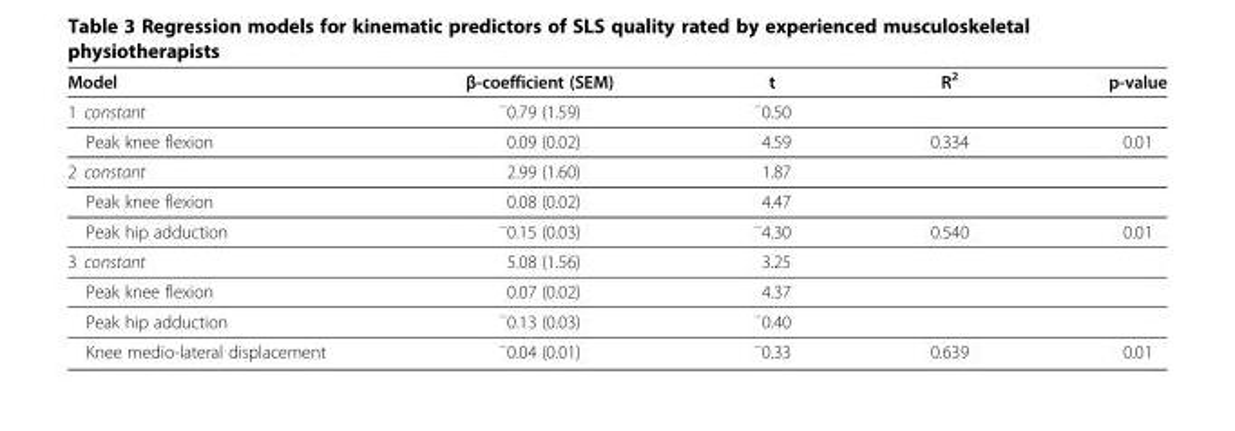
<table><thead><tr><td>Model</td><td>β-coefficient (SEM)</td><td>t</td><td>R<sup>2</sup></td><td>p-value</td></tr></thead><tbody><tr><td>1 constant</td><td><sup>−</sup>0.79 (1.59)</td><td><sup>−</sup>0.50</td><td></td><td></td></tr><tr><td>Peak knee flexion</td><td>0.09 (0.02)</td><td>4.59</td><td>0.334</td><td>0.01</td></tr><tr><td>2 constant</td><td>2.99 (1.60)</td><td>1.87</td><td></td><td></td></tr><tr><td>Peak knee flexion</td><td>0.08 (0.02)</td><td>4.47</td><td></td><td></td></tr><tr><td>Peak hip adduction</td><td><sup>−</sup>0.15 (0.03)</td><td><sup>−</sup>4.30</td><td>0.540</td><td>0.01</td></tr><tr><td>3 constant</td><td>5.08 (1.56)</td><td>3.25</td><td></td><td></td></tr><tr><td>Peak knee flexion</td><td>0.07 (0.02)</td><td>4.37</td><td></td><td></td></tr><tr><td>Peak hip adduction</td><td><sup>−</sup>0.13 (0.03)</td><td><sup>−</sup>0.40</td><td></td><td></td></tr><tr><td>Knee medio-lateral displacement</td><td><sup>−</sup>0.04 (0.01)</td><td><sup>−</sup>0.33</td><td>0.639</td><td>0.01</td></tr></tbody></table>